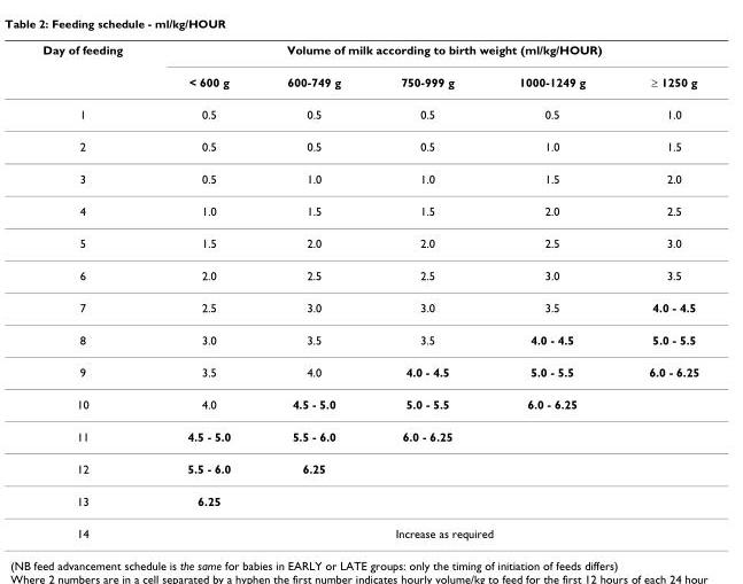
<table><thead><tr><td rowspan="2">Day of feeding</td><td colspan="5">Volume of milk according to birth weight (ml/kg/HOUR)</td></tr><tr><td>&lt; 600 g</td><td>600-749 g</td><td>750-999 g</td><td>1000-1249 g</td><td>≥ 1250 g</td></tr></thead><tbody><tr><td>1</td><td>0.5</td><td>0.5</td><td>0.5</td><td>0.5</td><td>1.0</td></tr><tr><td>2</td><td>0.5</td><td>0.5</td><td>0.5</td><td>1.0</td><td>1.5</td></tr><tr><td>3</td><td>0.5</td><td>1.0</td><td>1.0</td><td>1.5</td><td>2.0</td></tr><tr><td>4</td><td>1.0</td><td>1.5</td><td>1.5</td><td>2.0</td><td>2.5</td></tr><tr><td>5</td><td>1.5</td><td>2.0</td><td>2.0</td><td>2.5</td><td>3.0</td></tr><tr><td>6</td><td>2.0</td><td>2.5</td><td>2.5</td><td>3.0</td><td>3.5</td></tr><tr><td>7</td><td>2.5</td><td>3.0</td><td>3.0</td><td>3.5</td><td>4.0 - 4.5</td></tr><tr><td>8</td><td>3.0</td><td>3.5</td><td>3.5</td><td>4.0 - 4.5</td><td>5.0 - 5.5</td></tr><tr><td>9</td><td>3.5</td><td>4.0</td><td>4.0 - 4.5</td><td>5.0 - 5.5</td><td>6.0 - 6.25</td></tr><tr><td>10</td><td>4.0</td><td>4.5 - 5.0</td><td>5.0 - 5.5</td><td>6.0 - 6.25</td><td></td></tr><tr><td>11</td><td>4.5 - 5.0</td><td>5.5 - 6.0</td><td>6.0 - 6.25</td><td></td><td></td></tr><tr><td>12</td><td>5.5 - 6.0</td><td>6.25</td><td></td><td></td><td></td></tr><tr><td>13</td><td>6.25</td><td></td><td></td><td></td><td></td></tr><tr><td>14</td><td colspan="5">Increase as required</td></tr></tbody></table>